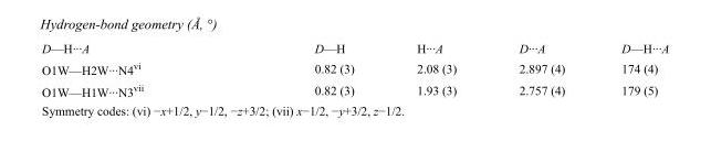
<table><tbody><tr><td>D—H···A</td><td>D—H</td><td>H···A</td><td>D···A</td><td>D—H···A</td></tr><tr><td>O1W—H2W···N4<sup>vi</sup></td><td>0.82 (3)</td><td>2.08 (3)</td><td>2.897 (4)</td><td>174 (4)</td></tr><tr><td>O1W—H1W···N3<sup>vii</sup></td><td>0.82 (3)</td><td>1.93 (3)</td><td>2.757 (4)</td><td>179 (5)</td></tr></tbody></table>